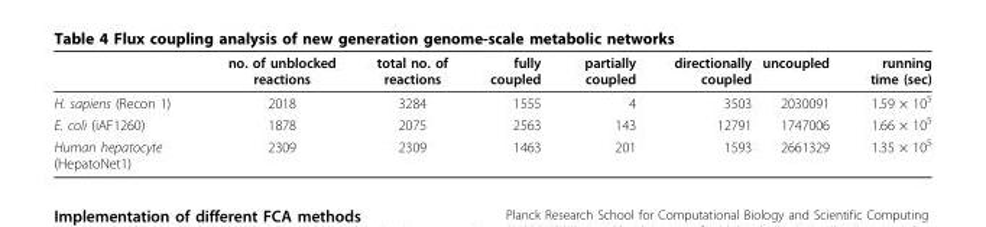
<table><thead><tr><td></td><td>no. of unblocked reactions</td><td>total no. of reactions</td><td>fully coupled</td><td>partially coupled</td><td>directionally coupled</td><td>uncoupled</td><td>running time (sec)</td></tr></thead><tbody><tr><td>H. sapiens (Recon 1)</td><td>2018</td><td>3284</td><td>1555</td><td>4</td><td>3503</td><td>2030091</td><td>1.59 × 10<sup>5</sup></td></tr><tr><td>E. coli (iAF1260)</td><td>1878</td><td>2075</td><td>2563</td><td>143</td><td>12791</td><td>1747006</td><td>1.66 × 10<sup>5</sup></td></tr><tr><td>Human hepatocyte (HepatoNet1)</td><td>2309</td><td>2309</td><td>1463</td><td>201</td><td>1593</td><td>2661329</td><td>1.35 × 10<sup>5</sup></td></tr></tbody></table>